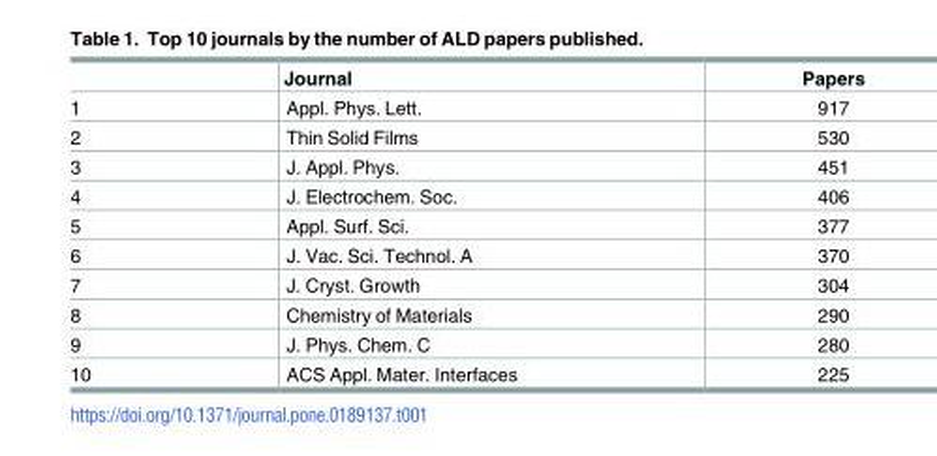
<table><thead><tr><td></td><td>Journal</td><td>Papers</td></tr></thead><tbody><tr><td>1</td><td>Appl. Phys. Lett.</td><td>917</td></tr><tr><td>2</td><td>Thin Solid Films</td><td>530</td></tr><tr><td>3</td><td>J. Appl. Phys.</td><td>451</td></tr><tr><td>4</td><td>J. Electrochem. Soc.</td><td>406</td></tr><tr><td>5</td><td>Appl. Surf. Sci.</td><td>377</td></tr><tr><td>6</td><td>J. Vac. Sci. Technol. A</td><td>370</td></tr><tr><td>7</td><td>J. Cryst. Growth</td><td>304</td></tr><tr><td>8</td><td>Chemistry of Materials</td><td>290</td></tr><tr><td>9</td><td>J. Phys. Chem. C</td><td>280</td></tr><tr><td>10</td><td>ACS Appl. Mater. Interfaces</td><td>225</td></tr></tbody></table>